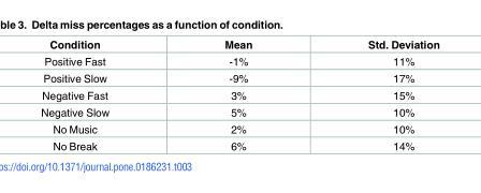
<table><thead><tr><td>Condition</td><td>Mean</td><td>Std. Deviation</td></tr></thead><tbody><tr><td>Positive Fast</td><td>-1%</td><td>11%</td></tr><tr><td>Positive Slow</td><td>-9%</td><td>17%</td></tr><tr><td>Negative Fast</td><td>3%</td><td>15%</td></tr><tr><td>Negative Slow</td><td>5%</td><td>10%</td></tr><tr><td>No Music</td><td>2%</td><td>10%</td></tr><tr><td>No Break</td><td>6%</td><td>14%</td></tr></tbody></table>